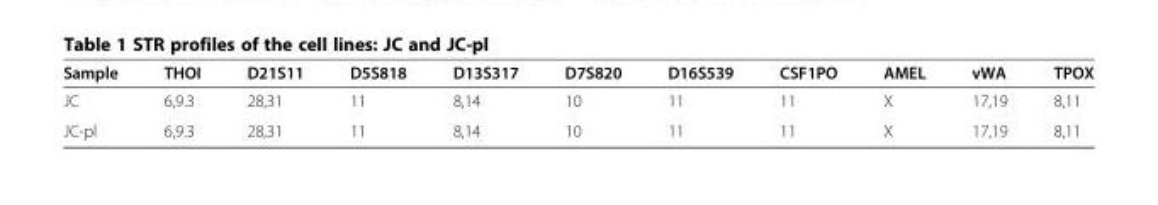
<table><thead><tr><td>Sample</td><td>THOI</td><td>D21S11</td><td>D5S818</td><td>D13S317</td><td>D7S820</td><td>D16S539</td><td>CSF1PO</td><td>AMEL</td><td>vWA</td><td>TPOX</td></tr></thead><tbody><tr><td>JC</td><td>6,9.3</td><td>28,31</td><td>11</td><td>8,14</td><td>10</td><td>11</td><td>11</td><td>X</td><td>17,19</td><td>8,11</td></tr><tr><td>JC-pl</td><td>6,9.3</td><td>28,31</td><td>11</td><td>8,14</td><td>10</td><td>11</td><td>11</td><td>X</td><td>17,19</td><td>8,11</td></tr></tbody></table>